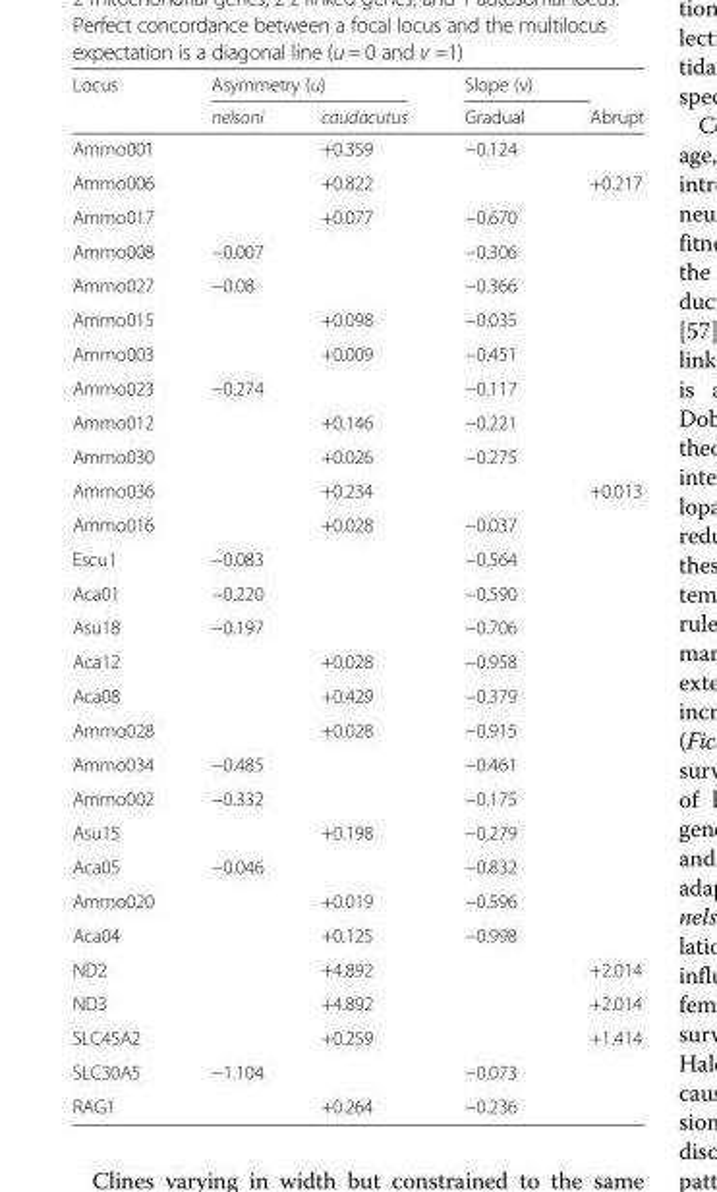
<table><thead><tr><td rowspan="2">Locus</td><td colspan="2">Asymmetry (u)</td><td rowspan="2">Slope (ν) Gradual</td><td rowspan="2">Abrupt</td></tr><tr><td>nelsoni</td><td>caudacutus</td></tr></thead><tbody><tr><td>Ammo001</td><td></td><td>+0.359</td><td>−0.124</td><td></td></tr><tr><td>Ammo006</td><td></td><td>+0.822</td><td></td><td>+0.217</td></tr><tr><td>Ammo017</td><td></td><td>+0.077</td><td>−0.670</td><td></td></tr><tr><td>Ammo008</td><td>−0.007</td><td></td><td>−0.306</td><td></td></tr><tr><td>Ammo027</td><td>−0.08</td><td></td><td>−0.366</td><td></td></tr><tr><td>Ammo015</td><td></td><td>+0.098</td><td>−0.035</td><td></td></tr><tr><td>Ammo003</td><td></td><td>+0.009</td><td>−0.451</td><td></td></tr><tr><td>Ammo023</td><td>−0.274</td><td></td><td>−0.117</td><td></td></tr><tr><td>Ammo012</td><td></td><td>+0.146</td><td>−0.221</td><td></td></tr><tr><td>Ammo030</td><td></td><td>+0.026</td><td>−0.275</td><td></td></tr><tr><td>Ammo036</td><td></td><td>+0.234</td><td></td><td>+0.013</td></tr><tr><td>Ammo016</td><td></td><td>+0.028</td><td>−0.037</td><td></td></tr><tr><td>Escu1</td><td>−0.083</td><td></td><td>−0.564</td><td></td></tr><tr><td>Aca01</td><td>−0.220</td><td></td><td>−0.590</td><td></td></tr><tr><td>Asu18</td><td>−0.197</td><td></td><td>−0.706</td><td></td></tr><tr><td>Aca12</td><td></td><td>+0.028</td><td>−0.958</td><td></td></tr><tr><td>Aca08</td><td></td><td>+0.429</td><td>−0.379</td><td></td></tr><tr><td>Ammo028</td><td></td><td>+0.028</td><td>−0.915</td><td></td></tr><tr><td>Ammo034</td><td>−0.485</td><td></td><td>−0.461</td><td></td></tr><tr><td>Ammo002</td><td>−0.332</td><td></td><td>−0.175</td><td></td></tr><tr><td>Asu15</td><td></td><td>+0.198</td><td>−0.279</td><td></td></tr><tr><td>Aca05</td><td>−0.046</td><td></td><td>−0.832</td><td></td></tr><tr><td>Ammo020</td><td></td><td>+0.019</td><td>−0.596</td><td></td></tr><tr><td>Aca04</td><td></td><td>+0.125</td><td>−0.998</td><td></td></tr><tr><td>ND2</td><td></td><td>+4.892</td><td></td><td>+2.014</td></tr><tr><td>ND3</td><td></td><td>+4.892</td><td></td><td>+2.014</td></tr><tr><td>SLC45A2</td><td></td><td>+0.259</td><td></td><td>+1.414</td></tr><tr><td>SLC30A5</td><td>−1.104</td><td></td><td>−0.073</td><td></td></tr><tr><td>RAG1</td><td></td><td>+0.264</td><td>−0.236</td><td></td></tr></tbody></table>